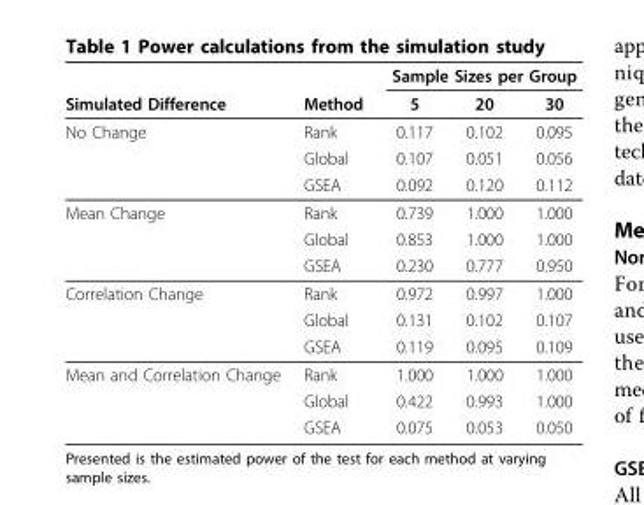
<table><thead><tr><td rowspan="2">Simulated Difference</td><td rowspan="2">Method</td><td colspan="3">Sample Sizes per Group</td></tr><tr><td>5</td><td>20</td><td>30</td></tr></thead><tbody><tr><td rowspan="3">No Change</td><td>Rank</td><td>0.117</td><td>0.102</td><td>0.095</td></tr><tr><td>Global</td><td>0.107</td><td>0.051</td><td>0.056</td></tr><tr><td>GSEA</td><td>0.092</td><td>0.120</td><td>0.112</td></tr><tr><td rowspan="3">Mean Change</td><td>Rank</td><td>0.739</td><td>1.000</td><td>1.000</td></tr><tr><td>Global</td><td>0.853</td><td>1.000</td><td>1.000</td></tr><tr><td>GSEA</td><td>0.230</td><td>0.777</td><td>0.950</td></tr><tr><td rowspan="3">Correlation Change</td><td>Rank</td><td>0.972</td><td>0.997</td><td>1.000</td></tr><tr><td>Global</td><td>0.131</td><td>0.102</td><td>0.107</td></tr><tr><td>GSEA</td><td>0.119</td><td>0.095</td><td>0.109</td></tr><tr><td rowspan="3">Mean and Correlation Change</td><td>Rank</td><td>1.000</td><td>1.000</td><td>1.000</td></tr><tr><td>Global</td><td>0.422</td><td>0.993</td><td>1.000</td></tr><tr><td>GSEA</td><td>0.075</td><td>0.053</td><td>0.050</td></tr></tbody></table>